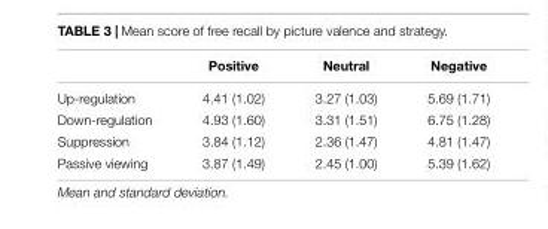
<table><thead><tr><td></td><td>Positive</td><td>Neutral</td><td>Negative</td></tr></thead><tbody><tr><td>Up-regulation</td><td>4.41 (1.02)</td><td>3.27 (1.03)</td><td>5.69 (1.71)</td></tr><tr><td>Down-regulation</td><td>4.93 (1.60)</td><td>3.31 (1.51)</td><td>6.75 (1.28)</td></tr><tr><td>Suppression</td><td>3.84 (1.12)</td><td>2.36 (1.47)</td><td>4.81 (1.47)</td></tr><tr><td>Passive viewing</td><td>3.87 (1.49)</td><td>2.45 (1.00)</td><td>5.39 (1.62)</td></tr></tbody></table>